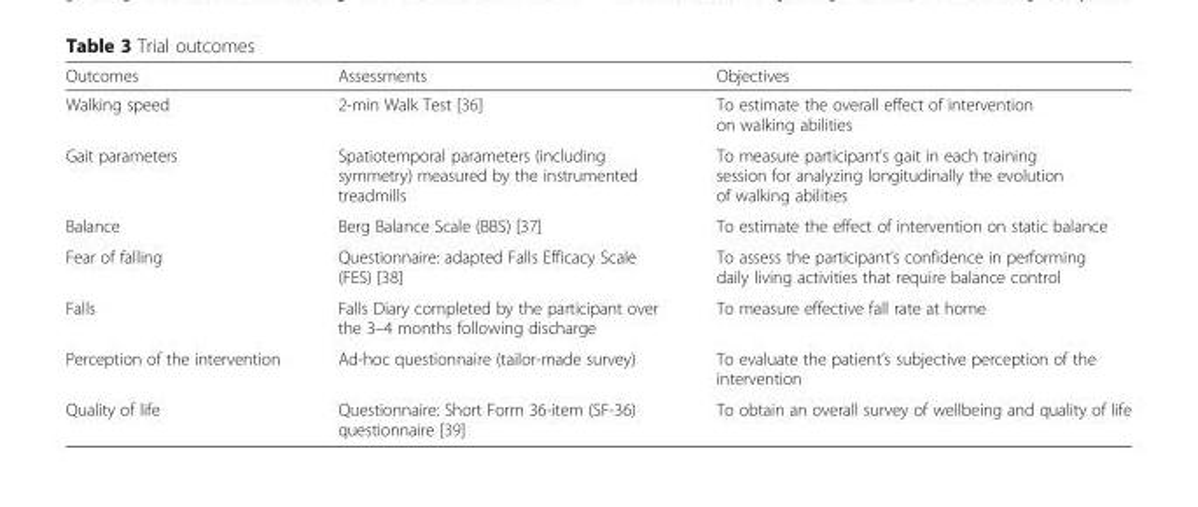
<table><thead><tr><td>Outcomes</td><td>Assessments</td><td>Objectives</td></tr></thead><tbody><tr><td>Walking speed</td><td>2-min Walk Test [36]</td><td>To estimate the overall effect of intervention on walking abilities</td></tr><tr><td>Gait parameters</td><td>Spatiotemporal parameters (including symmetry) measured by the instrumented treadmills</td><td>To measure participant’s gait in each training session for analyzing longitudinally the evolution of walking abilities</td></tr><tr><td>Balance</td><td>Berg Balance Scale (BBS) [37]</td><td>To estimate the effect of intervention on static balance</td></tr><tr><td>Fear of falling</td><td>Questionnaire: adapted Falls Efficacy Scale (FES) [38]</td><td>To assess the participant’s confidence in performing daily living activities that require balance control</td></tr><tr><td>Falls</td><td>Falls Diary completed by the participant over the 3–4 months following discharge</td><td>To measure effective fall rate at home</td></tr><tr><td>Perception of the intervention</td><td>Ad-hoc questionnaire (tailor-made survey)</td><td>To evaluate the patient’s subjective perception of the intervention</td></tr><tr><td>Quality of life</td><td>Questionnaire: Short Form 36-item (SF-36) questionnaire [39]</td><td>To obtain an overall survey of wellbeing and quality of life</td></tr></tbody></table>